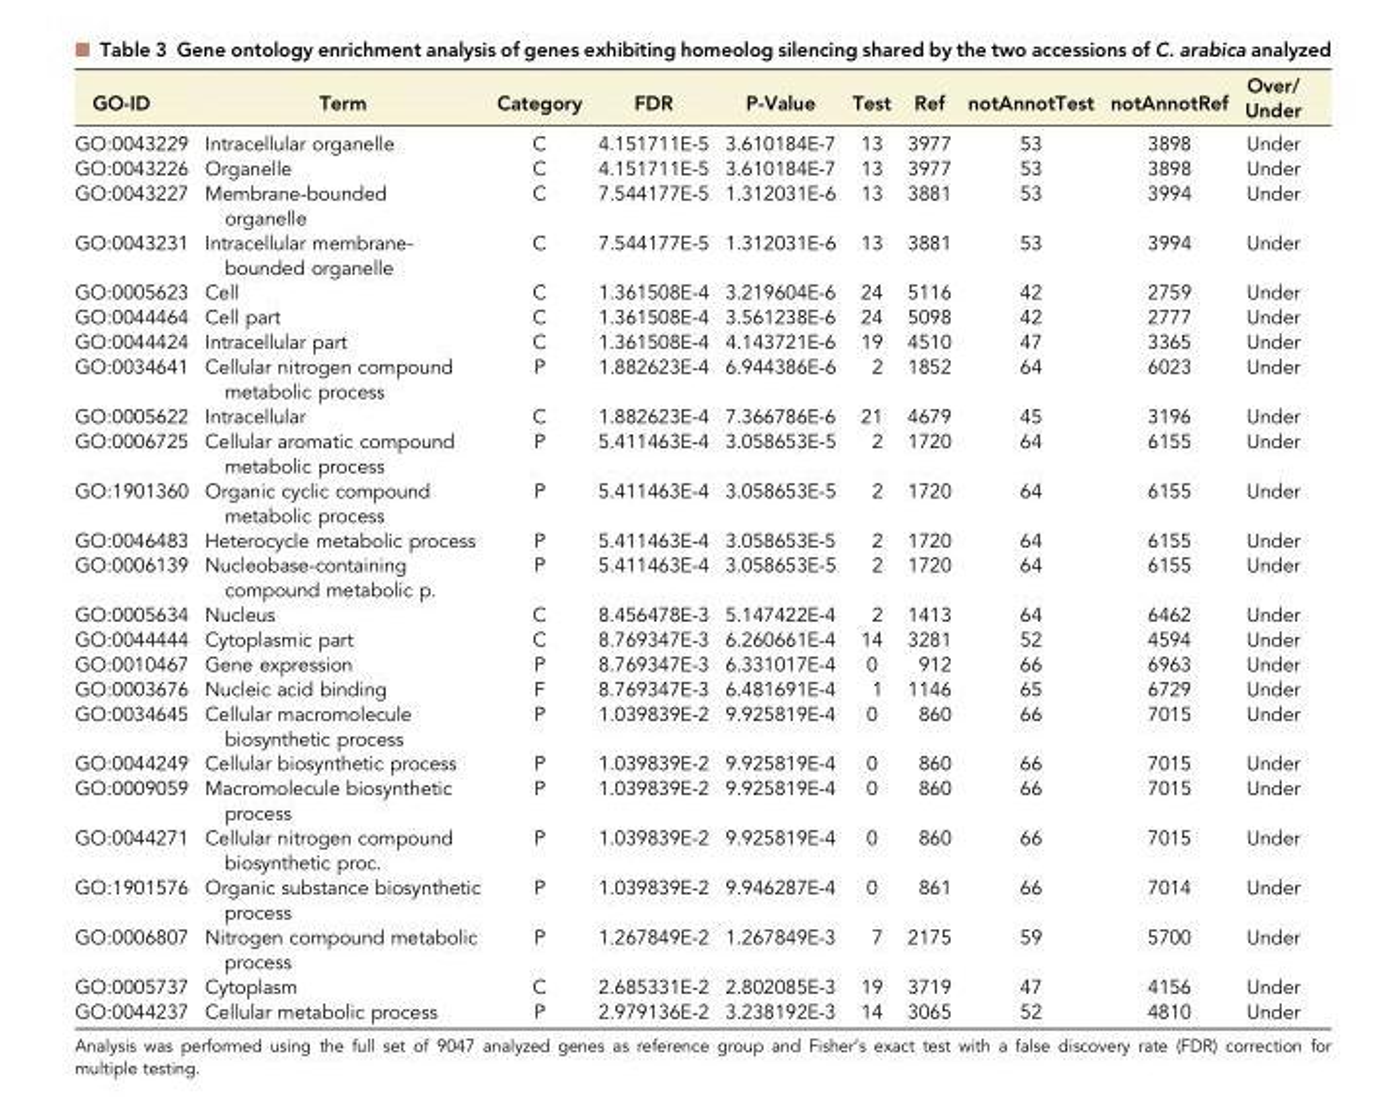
<table><thead><tr><td>GO-ID</td><td>Term</td><td>Category</td><td>FDR</td><td>P-Value</td><td>Test</td><td>Ref</td><td>notAnnotTest</td><td>notAnnotRef</td><td>Over/ Under</td></tr></thead><tbody><tr><td>GO:0043229</td><td>Intracellular organelle</td><td>C</td><td>4.151711E-5</td><td>3.610184E-7</td><td>13</td><td>3977</td><td>53</td><td>3898</td><td>Under</td></tr><tr><td>GO:0043226</td><td>Organelle</td><td>C</td><td>4.151711E-5</td><td>3.610184E-7</td><td>13</td><td>3977</td><td>53</td><td>3898</td><td>Under</td></tr><tr><td>GO:0043227</td><td>Membrane-bounded organelle</td><td>C</td><td>7.544177E-5</td><td>1.312031E-6</td><td>13</td><td>3881</td><td>53</td><td>3994</td><td>Under</td></tr><tr><td>GO:0043231</td><td>Intracellular membrane- bounded organelle</td><td>C</td><td>7.544177E-5</td><td>1.312031E-6</td><td>13</td><td>3881</td><td>53</td><td>3994</td><td>Under</td></tr><tr><td>GO:0005623</td><td>Cell</td><td>C</td><td>1.361508E-4</td><td>3.219604E-6</td><td>24</td><td>5116</td><td>42</td><td>2759</td><td>Under</td></tr><tr><td>GO:0044464</td><td>Cell part</td><td>C</td><td>1.361508E-4</td><td>3.561238E-6</td><td>24</td><td>5098</td><td>42</td><td>2777</td><td>Under</td></tr><tr><td>GO:0044424</td><td>Intracellular part</td><td>C</td><td>1.361508E-4</td><td>4.143721E-6</td><td>19</td><td>4510</td><td>47</td><td>3365</td><td>Under</td></tr><tr><td>GO:0034641</td><td>Cellular nitrogen compound metabolic process</td><td>P</td><td>1.882623E-4</td><td>6.944386E-6</td><td>2</td><td>1852</td><td>64</td><td>6023</td><td>Under</td></tr><tr><td>GO:0005622</td><td>Intracellular</td><td>C</td><td>1.882623E-4</td><td>7.366786E-6</td><td>21</td><td>4679</td><td>45</td><td>3196</td><td>Under</td></tr><tr><td>GO:0006725</td><td>Cellular aromatic compound metabolic process</td><td>P</td><td>5.411463E-4</td><td>3.058653E-5</td><td>2</td><td>1720</td><td>64</td><td>6155</td><td>Under</td></tr><tr><td>GO:1901360</td><td>Organic cyclic compound metabolic process</td><td>P</td><td>5.411463E-4</td><td>3.058653E-5</td><td>2</td><td>1720</td><td>64</td><td>6155</td><td>Under</td></tr><tr><td>GO:0046483</td><td>Heterocycle metabolic process</td><td>P</td><td>5.411463E-4</td><td>3.058653E-5</td><td>2</td><td>1720</td><td>64</td><td>6155</td><td>Under</td></tr><tr><td>GO:0006139</td><td>Nucleobase-containing compound metabolic p.</td><td>P</td><td>5.411463E-4</td><td>3.058653E-5</td><td>2</td><td>1720</td><td>64</td><td>6155</td><td>Under</td></tr><tr><td>GO:0005634</td><td>Nucleus</td><td>C</td><td>8.456478E-3</td><td>5.147422E-4</td><td>2</td><td>1413</td><td>64</td><td>6462</td><td>Under</td></tr><tr><td>GO:0044444</td><td>Cytoplasmic part</td><td>C</td><td>8.769347E-3</td><td>6.260661E-4</td><td>14</td><td>3281</td><td>52</td><td>4594</td><td>Under</td></tr><tr><td>GO:0010467</td><td>Gene expression</td><td>P</td><td>8.769347E-3</td><td>6.331017E-4</td><td>0</td><td>912</td><td>66</td><td>6963</td><td>Under</td></tr><tr><td>GO:0003676</td><td>Nucleic acid binding</td><td>F</td><td>8.769347E-3</td><td>6.481691E-4</td><td>1</td><td>1146</td><td>65</td><td>6729</td><td>Under</td></tr><tr><td>GO:0034645</td><td>Cellular macromolecule biosynthetic process</td><td>P</td><td>1.039839E-2</td><td>9.925819E-4</td><td>0</td><td>860</td><td>66</td><td>7015</td><td>Under</td></tr><tr><td>GO:0044249</td><td>Cellular biosynthetic process</td><td>P</td><td>1.039839E-2</td><td>9.925819E-4</td><td>0</td><td>860</td><td>66</td><td>7015</td><td>Under</td></tr><tr><td>GO:0009059</td><td>Macromolecule biosynthetic process</td><td>P</td><td>1.039839E-2</td><td>9.925819E-4</td><td>0</td><td>860</td><td>66</td><td>7015</td><td>Under</td></tr><tr><td>GO:0044271</td><td>Cellular nitrogen compound biosynthetic proc.</td><td>P</td><td>1.039839E-2</td><td>9.925819E-4</td><td>0</td><td>860</td><td>66</td><td>7015</td><td>Under</td></tr><tr><td>GO:1901576</td><td>Organic substance biosynthetic process</td><td>P</td><td>1.039839E-2</td><td>9.946287E-4</td><td>0</td><td>861</td><td>66</td><td>7014</td><td>Under</td></tr><tr><td>GO:0006807</td><td>Nitrogen compound metabolic process</td><td>P</td><td>1.267849E-2</td><td>1.267849E-3</td><td>7</td><td>2175</td><td>59</td><td>5700</td><td>Under</td></tr><tr><td>GO:0005737</td><td>Cytoplasm</td><td>C</td><td>2.685331E-2</td><td>2.802085E-3</td><td>19</td><td>3719</td><td>47</td><td>4156</td><td>Under</td></tr><tr><td>GO:0044237</td><td>Cellular metabolic process</td><td>P</td><td>2.979136E-2</td><td>3.238192E-3</td><td>14</td><td>3065</td><td>52</td><td>4810</td><td>Under</td></tr></tbody></table>